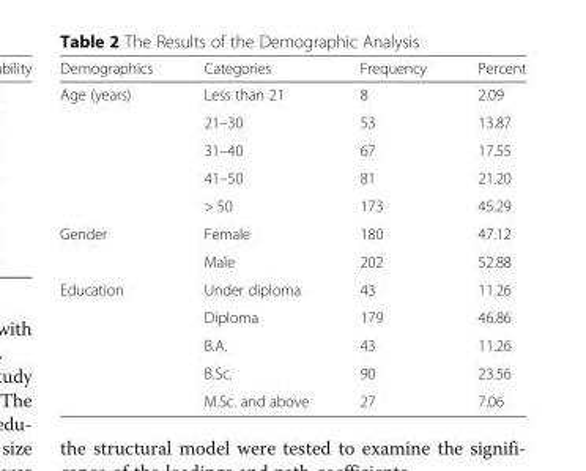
<table><thead><tr><td>Demographics</td><td>Categories</td><td>Frequency</td><td>Percent</td></tr></thead><tbody><tr><td rowspan="5">Age (years)</td><td>Less than 21</td><td>8</td><td>2.09</td></tr><tr><td>21–30</td><td>53</td><td>13.87</td></tr><tr><td>31–40</td><td>67</td><td>17.55</td></tr><tr><td>41–50</td><td>81</td><td>21.20</td></tr><tr><td>&gt; 50</td><td>173</td><td>45.29</td></tr><tr><td rowspan="2">Gender</td><td>Female</td><td>180</td><td>47.12</td></tr><tr><td>Male</td><td>202</td><td>52.88</td></tr><tr><td rowspan="5">Education</td><td>Under diploma</td><td>43</td><td>11.26</td></tr><tr><td>Diploma</td><td>179</td><td>46.86</td></tr><tr><td>B.A.</td><td>43</td><td>11.26</td></tr><tr><td>B.Sc.</td><td>90</td><td>23.56</td></tr><tr><td>M.Sc. and above</td><td>27</td><td>7.06</td></tr></tbody></table>